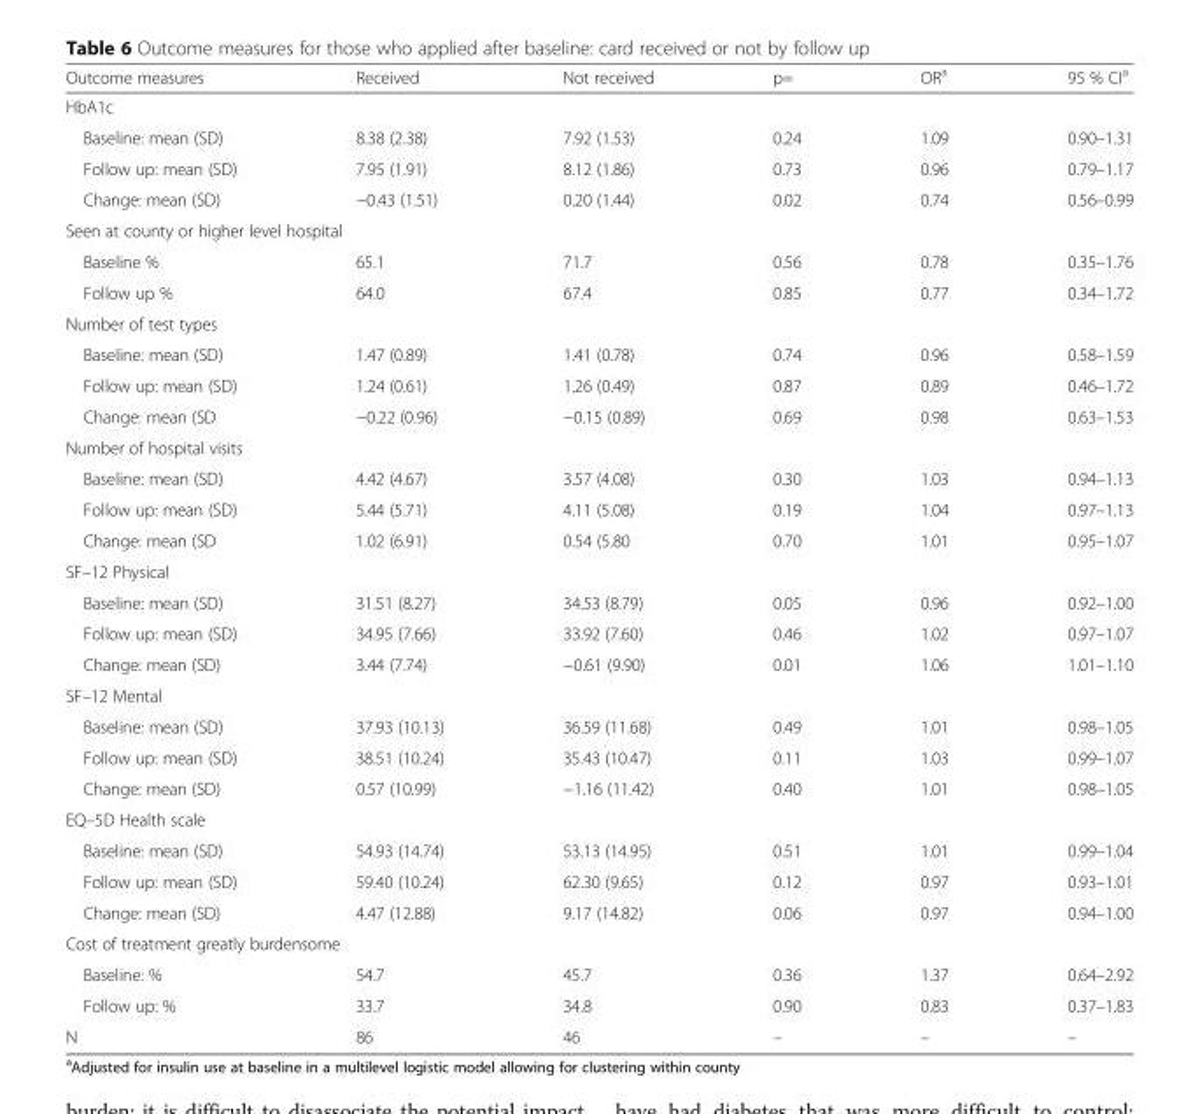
<table><thead><tr><td>Outcome measures</td><td>Received</td><td>Not received</td><td>p=</td><td>OR<sup>a</sup></td><td>95 % CI<sup>a</sup></td></tr></thead><tbody><tr><td colspan="6">HbA1c</td></tr><tr><td>Baseline: mean (SD)</td><td>8.38 (2.38)</td><td>7.92 (1.53)</td><td>0.24</td><td>1.09</td><td>0.90–1.31</td></tr><tr><td>Follow up: mean (SD)</td><td>7.95 (1.91)</td><td>8.12 (1.86)</td><td>0.73</td><td>0.96</td><td>0.79–1.17</td></tr><tr><td>Change: mean (SD)</td><td>−0.43 (1.51)</td><td>0.20 (1.44)</td><td>0.02</td><td>0.74</td><td>0.56–0.99</td></tr><tr><td colspan="6">Seen at county or higher level hospital</td></tr><tr><td>Baseline %</td><td>65.1</td><td>71.7</td><td>0.56</td><td>0.78</td><td>0.35–1.76</td></tr><tr><td>Follow up %</td><td>64.0</td><td>67.4</td><td>0.85</td><td>0.77</td><td>0.34–1.72</td></tr><tr><td colspan="6">Number of test types</td></tr><tr><td>Baseline: mean (SD)</td><td>1.47 (0.89)</td><td>1.41 (0.78)</td><td>0.74</td><td>0.96</td><td>0.58–1.59</td></tr><tr><td>Follow up: mean (SD)</td><td>1.24 (0.61)</td><td>1.26 (0.49)</td><td>0.87</td><td>0.89</td><td>0.46–1.72</td></tr><tr><td>Change: mean (SD</td><td>−0.22 (0.96)</td><td>−0.15 (0.89)</td><td>0.69</td><td>0.98</td><td>0.63–1.53</td></tr><tr><td colspan="6">Number of hospital visits</td></tr><tr><td>Baseline: mean (SD)</td><td>4.42 (4.67)</td><td>3.57 (4.08)</td><td>0.30</td><td>1.03</td><td>0.94–1.13</td></tr><tr><td>Follow up: mean (SD)</td><td>5.44 (5.71)</td><td>4.11 (5.08)</td><td>0.19</td><td>1.04</td><td>0.97–1.13</td></tr><tr><td>Change: mean (SD</td><td>1.02 (6.91)</td><td>0.54 (5.80</td><td>0.70</td><td>1.01</td><td>0.95–1.07</td></tr><tr><td colspan="6">SF–12 Physical</td></tr><tr><td>Baseline: mean (SD)</td><td>31.51 (8.27)</td><td>34.53 (8.79)</td><td>0.05</td><td>0.96</td><td>0.92–1.00</td></tr><tr><td>Follow up: mean (SD)</td><td>34.95 (7.66)</td><td>33.92 (7.60)</td><td>0.46</td><td>1.02</td><td>0.97–1.07</td></tr><tr><td>Change: mean (SD)</td><td>3.44 (7.74)</td><td>−0.61 (9.90)</td><td>0.01</td><td>1.06</td><td>1.01–1.10</td></tr><tr><td colspan="6">SF–12 Mental</td></tr><tr><td>Baseline: mean (SD)</td><td>37.93 (10.13)</td><td>36.59 (11.68)</td><td>0.49</td><td>1.01</td><td>0.98–1.05</td></tr><tr><td>Follow up: mean (SD)</td><td>38.51 (10.24)</td><td>35.43 (10.47)</td><td>0.11</td><td>1.03</td><td>0.99–1.07</td></tr><tr><td>Change: mean (SD)</td><td>0.57 (10.99)</td><td>−1.16 (11.42)</td><td>0.40</td><td>1.01</td><td>0.98–1.05</td></tr><tr><td colspan="6">EQ–5D Health scale</td></tr><tr><td>Baseline: mean (SD)</td><td>54.93 (14.74)</td><td>53.13 (14.95)</td><td>0.51</td><td>1.01</td><td>0.99–1.04</td></tr><tr><td>Follow up: mean (SD)</td><td>59.40 (10.24)</td><td>62.30 (9.65)</td><td>0.12</td><td>0.97</td><td>0.93–1.01</td></tr><tr><td>Change: mean (SD)</td><td>4.47 (12.88)</td><td>9.17 (14.82)</td><td>0.06</td><td>0.97</td><td>0.94–1.00</td></tr><tr><td colspan="6">Cost of treatment greatly burdensome</td></tr><tr><td>Baseline: %</td><td>54.7</td><td>45.7</td><td>0.36</td><td>1.37</td><td>0.64–2.92</td></tr><tr><td>Follow up: %</td><td>33.7</td><td>34.8</td><td>0.90</td><td>0.83</td><td>0.37–1.83</td></tr><tr><td>N</td><td>86</td><td>46</td><td>–</td><td>–</td><td>–</td></tr></tbody></table>